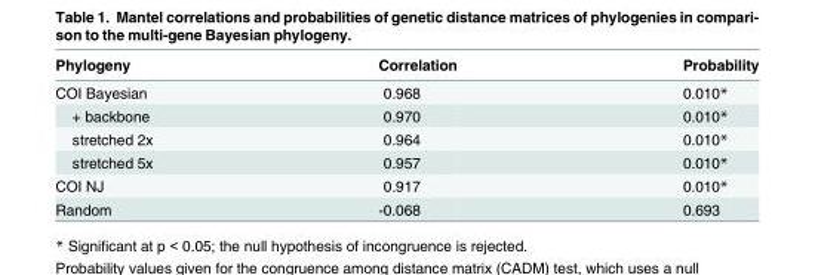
<table><thead><tr><td>Phylogeny</td><td>Correlation</td><td>Probability</td></tr></thead><tbody><tr><td>COI Bayesian</td><td>0.968</td><td>0.010*</td></tr><tr><td>+ backbone</td><td>0.970</td><td>0.010*</td></tr><tr><td>stretched 2x</td><td>0.964</td><td>0.010*</td></tr><tr><td>stretched 5x</td><td>0.957</td><td>0.010*</td></tr><tr><td>COI NJ</td><td>0.917</td><td>0.010*</td></tr><tr><td>Random</td><td>-0.068</td><td>0.693</td></tr></tbody></table>